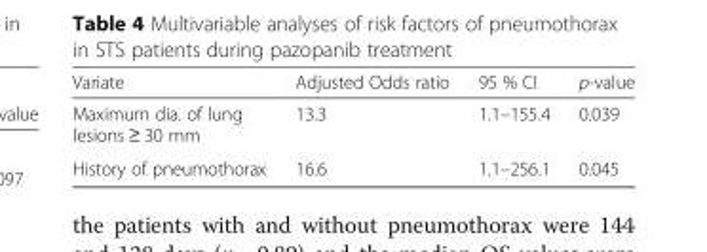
<table><thead><tr><td>Variate</td><td>Adjusted Odds ratio</td><td>95 % CI</td><td>p-value</td></tr></thead><tbody><tr><td>Maximum dia. of lung lesions ≥ 30 mm</td><td>13.3</td><td>1.1–155.4</td><td>0.039</td></tr><tr><td>History of pneumothorax</td><td>16.6</td><td>1.1–256.1</td><td>0.045</td></tr></tbody></table>